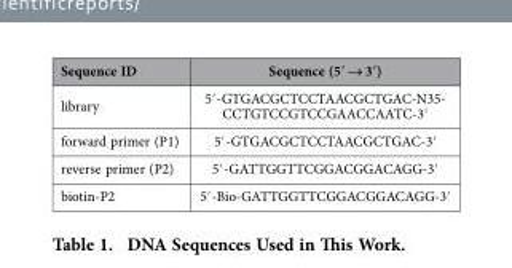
<table><thead><tr><td>Sequence ID</td><td>Sequence (5′ → 3′)</td></tr></thead><tbody><tr><td>library</td><td>5′ -GTGACGCTCCTAACGCTGAC-N35- CCTGTCCGTCCGAACCAATC-3′</td></tr><tr><td>forward primer (P1)</td><td>5′ -GTGACGCTCCTAACGCTGAC-3′</td></tr><tr><td>reverse primer (P2)</td><td>5′ -GATTGGTTCGGACGGACAGG-3′</td></tr><tr><td>biotin-P2</td><td>5′ -Bio-GATTGGTTCGGACGGACAGG-3′</td></tr></tbody></table>